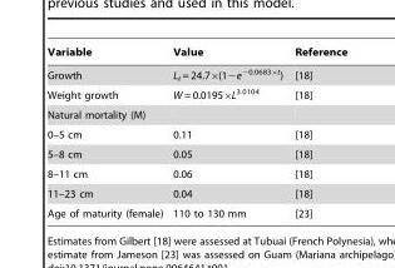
<table><thead><tr><td>Variable</td><td>Value</td><td>Reference</td></tr></thead><tbody><tr><td>Growth</td><td>L<sub>t</sub> = 24.7×(1−e<sup>−0.0683×t</sup>)</td><td>[18]</td></tr><tr><td>Weight growth</td><td>W = 0.0195×L<sup>3.0104</sup></td><td>[18]</td></tr><tr><td colspan="3">Natural mortality (M)</td></tr><tr><td>0–5 cm</td><td>0.11</td><td>[18]</td></tr><tr><td>5–8 cm</td><td>0.05</td><td>[18]</td></tr><tr><td>8–11 cm</td><td>0.06</td><td>[18]</td></tr><tr><td>11–23 cm</td><td>0.04</td><td>[18]</td></tr><tr><td>Age of maturity (female)</td><td>110 to 130 mm</td><td>[23]</td></tr></tbody></table>